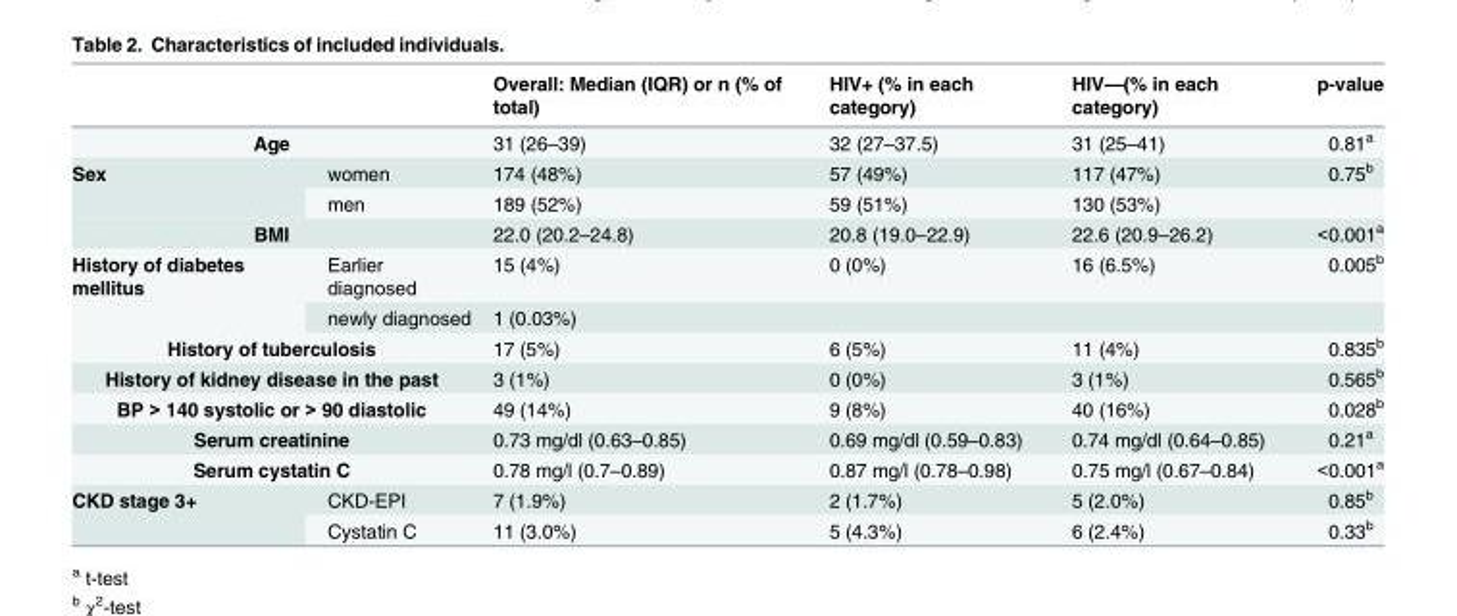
<table><thead><tr><td></td><td></td><td>Overall: Median (IQR) or n (% of total)</td><td>HIV+ (% in each category)</td><td>HIV—(% in each category)</td><td>p-value</td></tr></thead><tbody><tr><td colspan="2">Age</td><td>31 (26–39)</td><td>32 (27–37.5)</td><td>31 (25–41)</td><td>0.81<sup>a</sup></td></tr><tr><td rowspan="2">Sex</td><td>women</td><td>174 (48%)</td><td>57 (49%)</td><td>117 (47%)</td><td>0.75<sup>b</sup></td></tr><tr><td>men</td><td>189 (52%)</td><td>59 (51%)</td><td>130 (53%)</td><td></td></tr><tr><td colspan="2">BMI</td><td>22.0 (20.2–24.8)</td><td>20.8 (19.0–22.9)</td><td>22.6 (20.9–26.2)</td><td>&lt;0.001<sup>a</sup></td></tr><tr><td rowspan="2">History of diabetes mellitus</td><td>Earlier diagnosed</td><td>15 (4%)</td><td>0 (0%)</td><td>16 (6.5%)</td><td>0.005<sup>b</sup></td></tr><tr><td>newly diagnosed</td><td>1 (0.03%)</td><td></td><td></td><td></td></tr><tr><td colspan="2">History of tuberculosis</td><td>17 (5%)</td><td>6 (5%)</td><td>11 (4%)</td><td>0.835<sup>b</sup></td></tr><tr><td colspan="2">History of kidney disease in the past</td><td>3 (1%)</td><td>0 (0%)</td><td>3 (1%)</td><td>0.565<sup>b</sup></td></tr><tr><td colspan="2">BP &gt; 140 systolic or &gt; 90 diastolic</td><td>49 (14%)</td><td>9 (8%)</td><td>40 (16%)</td><td>0.028<sup>b</sup></td></tr><tr><td colspan="2">Serum creatinine</td><td>0.73 mg/dl (0.63–0.85)</td><td>0.69 mg/dl (0.59–0.83)</td><td>0.74 mg/dl (0.64–0.85)</td><td>0.21<sup>a</sup></td></tr><tr><td colspan="2">Serum cystatin C</td><td>0.78 mg/l (0.7–0.89)</td><td>0.87 mg/l (0.78–0.98)</td><td>0.75 mg/l (0.67–0.84)</td><td>&lt;0.001<sup>a</sup></td></tr><tr><td rowspan="2">CKD stage 3+</td><td>CKD-EPI</td><td>7 (1.9%)</td><td>2 (1.7%)</td><td>5 (2.0%)</td><td>0.85<sup>b</sup></td></tr><tr><td>Cystatin C</td><td>11 (3.0%)</td><td>5 (4.3%)</td><td>6 (2.4%)</td><td>0.33<sup>b</sup></td></tr></tbody></table>